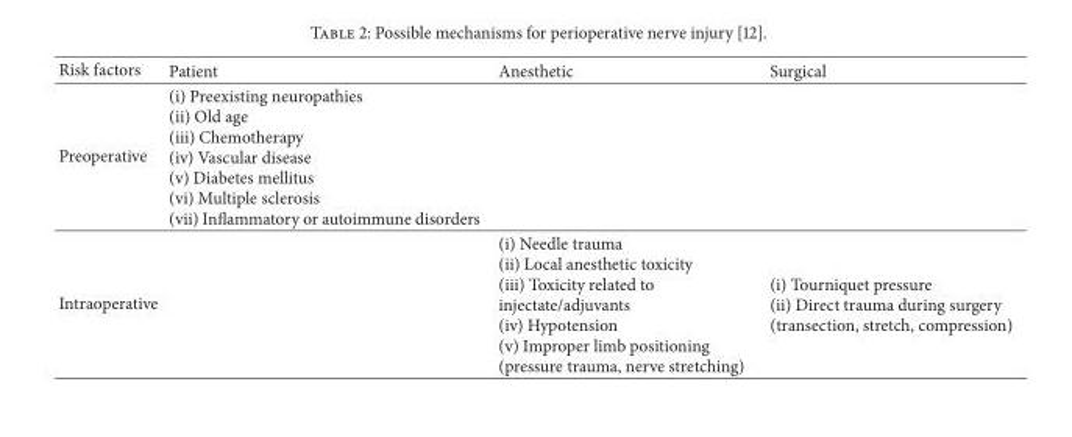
<table><thead><tr><td>Risk factors</td><td>Patient</td><td>Anesthetic</td><td>Surgical</td></tr></thead><tbody><tr><td>Preoperative</td><td>(i) Preexisting neuropathies (ii) Old age (iii) Chemotherapy (iv) Vascular disease (v) Diabetes mellitus (vi) Multiple sclerosis (vii) Inflammatory or autoimmune disorders</td><td></td><td></td></tr><tr><td>Intraoperative</td><td></td><td>(i) Needle trauma (ii) Local anesthetic toxicity (iii) Toxicity related to injectate/adjuvants (iv) Hypotension (v) Improper limb positioning (pressure trauma, nerve stretching)</td><td>(i) Tourniquet pressure (ii) Direct trauma during surgery (transection, stretch, compression)</td></tr></tbody></table>